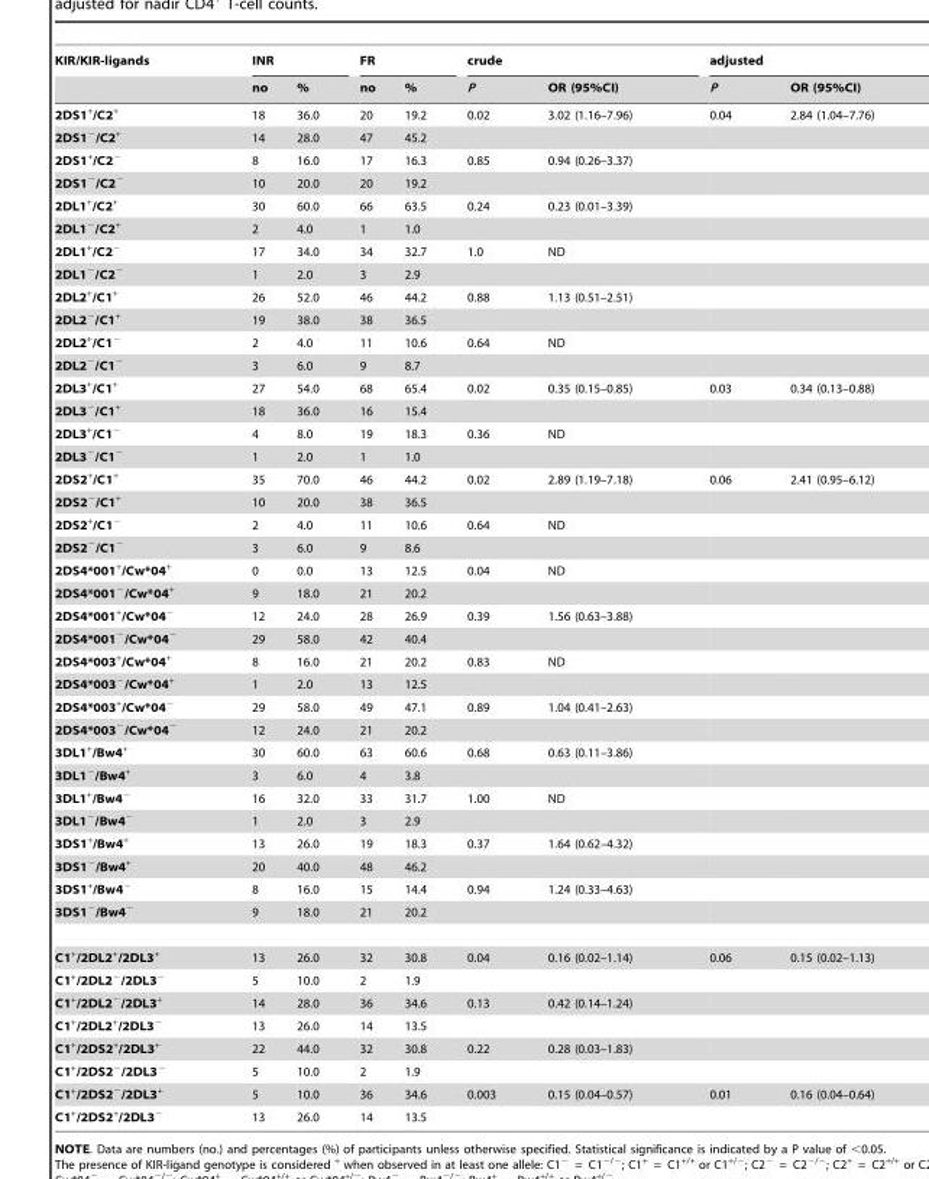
<table><thead><tr><td rowspan="2">KIR/KIR-ligands</td><td colspan="2">INR</td><td colspan="2">FR</td><td colspan="2">crude</td><td colspan="2">adjusted</td></tr><tr><td>no</td><td>%</td><td>no</td><td>%</td><td>P</td><td>OR (95%CI)</td><td>P</td><td>OR (95%CI)</td></tr></thead><tbody><tr><td>2DS1<sup>+</sup>/C2<sup>+</sup></td><td>18</td><td>36.0</td><td>20</td><td>19.2</td><td>0.02</td><td>3.02 (1.16–7.96)</td><td>0.04</td><td>2.84 (1.04–7.76)</td></tr><tr><td>2DS1<sup>−</sup>/C2<sup>+</sup></td><td>14</td><td>28.0</td><td>47</td><td>45.2</td><td></td><td></td><td></td><td></td></tr><tr><td>2DS1<sup>+</sup>/C2<sup>−</sup></td><td>8</td><td>16.0</td><td>17</td><td>16.3</td><td>0.85</td><td>0.94 (0.26–3.37)</td><td></td><td></td></tr><tr><td>2DS1<sup>−</sup>/C2<sup>−</sup></td><td>10</td><td>20.0</td><td>20</td><td>19.2</td><td></td><td></td><td></td><td></td></tr><tr><td>2DL1<sup>+</sup>/C2<sup>+</sup></td><td>30</td><td>60.0</td><td>66</td><td>63.5</td><td>0.24</td><td>0.23 (0.01–3.39)</td><td></td><td></td></tr><tr><td>2DL1<sup>−</sup>/C2<sup>+</sup></td><td>2</td><td>4.0</td><td>1</td><td>1.0</td><td></td><td></td><td></td><td></td></tr><tr><td>2DL1<sup>+</sup>/C2<sup>−</sup></td><td>17</td><td>34.0</td><td>34</td><td>32.7</td><td>1.0</td><td>ND</td><td></td><td></td></tr><tr><td>2DL1<sup>−</sup>/C2<sup>−</sup></td><td>1</td><td>2.0</td><td>3</td><td>2.9</td><td></td><td></td><td></td><td></td></tr><tr><td>2DL2<sup>+</sup>/C1<sup>+</sup></td><td>26</td><td>52.0</td><td>46</td><td>44.2</td><td>0.88</td><td>1.13 (0.51–2.51)</td><td></td><td></td></tr><tr><td>2DL2<sup>−</sup>/C1<sup>+</sup></td><td>19</td><td>38.0</td><td>38</td><td>36.5</td><td></td><td></td><td></td><td></td></tr><tr><td>2DL2<sup>+</sup>/C1<sup>−</sup></td><td>2</td><td>4.0</td><td>11</td><td>10.6</td><td>0.64</td><td>ND</td><td></td><td></td></tr><tr><td>2DL2<sup>−</sup>/C1<sup>−</sup></td><td>3</td><td>6.0</td><td>9</td><td>8.7</td><td></td><td></td><td></td><td></td></tr><tr><td>2DL3<sup>+</sup>/C1<sup>+</sup></td><td>27</td><td>54.0</td><td>68</td><td>65.4</td><td>0.02</td><td>0.35 (0.15–0.85)</td><td>0.03</td><td>0.34 (0.13–0.88)</td></tr><tr><td>2DL3<sup>−</sup>/C1<sup>+</sup></td><td>18</td><td>36.0</td><td>16</td><td>15.4</td><td></td><td></td><td></td><td></td></tr><tr><td>2DL3<sup>+</sup>/C1<sup>−</sup></td><td>4</td><td>8.0</td><td>19</td><td>18.3</td><td>0.36</td><td>ND</td><td></td><td></td></tr><tr><td>2DL3<sup>−</sup>/C1<sup>−</sup></td><td>1</td><td>2.0</td><td>1</td><td>1.0</td><td></td><td></td><td></td><td></td></tr><tr><td>2DS2<sup>+</sup>/C1<sup>+</sup></td><td>35</td><td>70.0</td><td>46</td><td>44.2</td><td>0.02</td><td>2.89 (1.19–7.18)</td><td>0.06</td><td>2.41 (0.95–6.12)</td></tr><tr><td>2DS2<sup>−</sup>/C1<sup>+</sup></td><td>10</td><td>20.0</td><td>38</td><td>36.5</td><td></td><td></td><td></td><td></td></tr><tr><td>2DS2<sup>+</sup>/C1<sup>−</sup></td><td>2</td><td>4.0</td><td>11</td><td>10.6</td><td>0.64</td><td>ND</td><td></td><td></td></tr><tr><td>2DS2<sup>−</sup>/C1<sup>−</sup></td><td>3</td><td>6.0</td><td>9</td><td>8.6</td><td></td><td></td><td></td><td></td></tr><tr><td>2DS4*001<sup>+</sup>/Cw*04<sup>+</sup></td><td>0</td><td>0.0</td><td>13</td><td>12.5</td><td>0.04</td><td>ND</td><td></td><td></td></tr><tr><td>2DS4*001<sup>−</sup>/Cw*04<sup>+</sup></td><td>9</td><td>18.0</td><td>21</td><td>20.2</td><td></td><td></td><td></td><td></td></tr><tr><td>2DS4*001<sup>+</sup>/Cw*04<sup>−</sup></td><td>12</td><td>24.0</td><td>28</td><td>26.9</td><td>0.39</td><td>1.56 (0.63–3.88)</td><td></td><td></td></tr><tr><td>2DS4*001<sup>−</sup>/Cw*04<sup>−</sup></td><td>29</td><td>58.0</td><td>42</td><td>40.4</td><td></td><td></td><td></td><td></td></tr><tr><td>2DS4*003<sup>+</sup>/Cw*04<sup>+</sup></td><td>8</td><td>16.0</td><td>21</td><td>20.2</td><td>0.83</td><td>ND</td><td></td><td></td></tr><tr><td>2DS4*003<sup>−</sup>/Cw*04<sup>+</sup></td><td>1</td><td>2.0</td><td>13</td><td>12.5</td><td></td><td></td><td></td><td></td></tr><tr><td>2DS4*003<sup>+</sup>/Cw*04<sup>−</sup></td><td>29</td><td>58.0</td><td>49</td><td>47.1</td><td>0.89</td><td>1.04 (0.41–2.63)</td><td></td><td></td></tr><tr><td>2DS4*003<sup>−</sup>/Cw*04<sup>−</sup></td><td>12</td><td>24.0</td><td>21</td><td>20.2</td><td></td><td></td><td></td><td></td></tr><tr><td>3DL1<sup>+</sup>/Bw4<sup>+</sup></td><td>30</td><td>60.0</td><td>63</td><td>60.6</td><td>0.68</td><td>0.63 (0.11–3.86)</td><td></td><td></td></tr><tr><td>3DL1<sup>−</sup>/Bw4<sup>+</sup></td><td>3</td><td>6.0</td><td>4</td><td>3.8</td><td></td><td></td><td></td><td></td></tr><tr><td>3DL1<sup>+</sup>/Bw4<sup>−</sup></td><td>16</td><td>32.0</td><td>33</td><td>31.7</td><td>1.00</td><td>ND</td><td></td><td></td></tr><tr><td>3DL1<sup>−</sup>/Bw4<sup>−</sup></td><td>1</td><td>2.0</td><td>3</td><td>2.9</td><td></td><td></td><td></td><td></td></tr><tr><td>3DS1<sup>+</sup>/Bw4<sup>+</sup></td><td>13</td><td>26.0</td><td>19</td><td>18.3</td><td>0.37</td><td>1.64 (0.62–4.32)</td><td></td><td></td></tr><tr><td>3DS1<sup>−</sup>/Bw4<sup>+</sup></td><td>20</td><td>40.0</td><td>48</td><td>46.2</td><td></td><td></td><td></td><td></td></tr><tr><td>3DS1<sup>+</sup>/Bw4<sup>−</sup></td><td>8</td><td>16.0</td><td>15</td><td>14.4</td><td>0.94</td><td>1.24 (0.33–4.63)</td><td></td><td></td></tr><tr><td>3DS1<sup>−</sup>/Bw4<sup>−</sup></td><td>9</td><td>18.0</td><td>21</td><td>20.2</td><td></td><td></td><td></td><td></td></tr><tr><td>C1<sup>+</sup>/2DL2<sup>+</sup>/2DL3<sup>+</sup></td><td>13</td><td>26.0</td><td>32</td><td>30.8</td><td>0.04</td><td>0.16 (0.02–1.14)</td><td>0.06</td><td>0.15 (0.02–1.13)</td></tr><tr><td>C1<sup>+</sup>/2DL2<sup>−</sup>/2DL3<sup>−</sup></td><td>5</td><td>10.0</td><td>2</td><td>1.9</td><td></td><td></td><td></td><td></td></tr><tr><td>C1<sup>+</sup>/2DL2<sup>−</sup>/2DL3<sup>+</sup></td><td>14</td><td>28.0</td><td>36</td><td>34.6</td><td>0.13</td><td>0.42 (0.14–1.24)</td><td></td><td></td></tr><tr><td>C1<sup>+</sup>/2DL2<sup>+</sup>/2DL3<sup>−</sup></td><td>13</td><td>26.0</td><td>14</td><td>13.5</td><td></td><td></td><td></td><td></td></tr><tr><td>C1<sup>+</sup>/2DS2<sup>+</sup>/2DL3<sup>+</sup></td><td>22</td><td>44.0</td><td>32</td><td>30.8</td><td>0.22</td><td>0.28 (0.03–1.83)</td><td></td><td></td></tr><tr><td>C1<sup>+</sup>/2DS2<sup>−</sup>/2DL3<sup>−</sup></td><td>5</td><td>10.0</td><td>2</td><td>1.9</td><td></td><td></td><td></td><td></td></tr><tr><td>C1<sup>+</sup>/2DS2<sup>−</sup>/2DL3<sup>+</sup></td><td>5</td><td>10.0</td><td>36</td><td>34.6</td><td>0.003</td><td>0.15 (0.04–0.57)</td><td>0.01</td><td>0.16 (0.04–0.64)</td></tr><tr><td>C1<sup>+</sup>/2DS2<sup>+</sup>/2DL3<sup>−</sup></td><td>13</td><td>26.0</td><td>14</td><td>13.5</td><td></td><td></td><td></td><td></td></tr></tbody></table>